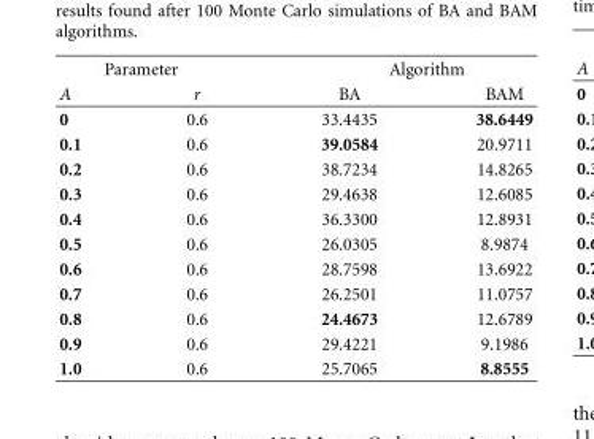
<table><thead><tr><td colspan="2">Parameter</td><td colspan="2">Algorithm</td></tr><tr><td>A</td><td>r</td><td>BA</td><td>BAM</td></tr></thead><tbody><tr><td>0</td><td>0.6</td><td>33.4435</td><td>38.6449</td></tr><tr><td>0.1</td><td>0.6</td><td>39.0584</td><td>20.9711</td></tr><tr><td>0.2</td><td>0.6</td><td>38.7234</td><td>14.8265</td></tr><tr><td>0.3</td><td>0.6</td><td>29.4638</td><td>12.6085</td></tr><tr><td>0.4</td><td>0.6</td><td>36.3300</td><td>12.8931</td></tr><tr><td>0.5</td><td>0.6</td><td>26.0305</td><td>8.9874</td></tr><tr><td>0.6</td><td>0.6</td><td>28.7598</td><td>13.6922</td></tr><tr><td>0.7</td><td>0.6</td><td>26.2501</td><td>11.0757</td></tr><tr><td>0.8</td><td>0.6</td><td>24.4673</td><td>12.6789</td></tr><tr><td>0.9</td><td>0.6</td><td>29.4221</td><td>9.1986</td></tr><tr><td>1.0</td><td>0.6</td><td>25.7065</td><td>8.8555</td></tr></tbody></table>